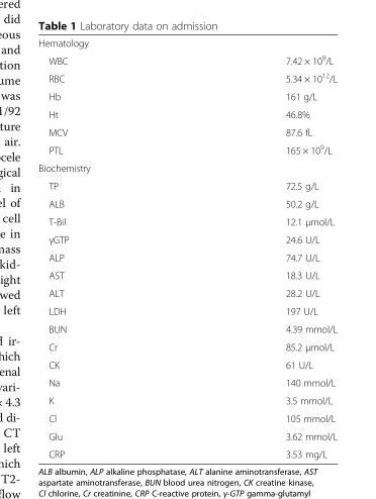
<table><tbody><tr><td colspan="2">Hematology</td></tr><tr><td>WBC</td><td>7.42 × 10<sup>9</sup>/L</td></tr><tr><td>RBC</td><td>5.34 × 10<sup>12</sup>/L</td></tr><tr><td>Hb</td><td>161 g/L</td></tr><tr><td>Ht</td><td>46.8%</td></tr><tr><td>MCV</td><td>87.6 fL</td></tr><tr><td>PTL</td><td>165 × 10<sup>9</sup>/L</td></tr><tr><td colspan="2">Biochemistry</td></tr><tr><td>TP</td><td>72.5 g/L</td></tr><tr><td>ALB</td><td>50.2 g/L</td></tr><tr><td>T-Bil</td><td>12.1 μmol/L</td></tr><tr><td>γGTP</td><td>24.6 U/L</td></tr><tr><td>ALP</td><td>74.7 U/L</td></tr><tr><td>AST</td><td>18.3 U/L</td></tr><tr><td>ALT</td><td>28.2 U/L</td></tr><tr><td>LDH</td><td>197 U/L</td></tr><tr><td>BUN</td><td>4.39 mmol/L</td></tr><tr><td>Cr</td><td>85.2 μmol/L</td></tr><tr><td>CK</td><td>61 U/L</td></tr><tr><td>Na</td><td>140 mmol/L</td></tr><tr><td>K</td><td>3.5 mmol/L</td></tr><tr><td>Cl</td><td>105 mmol/L</td></tr><tr><td>Glu</td><td>3.62 mmol/L</td></tr><tr><td>CRP</td><td>3.53 mg/L</td></tr></tbody></table>